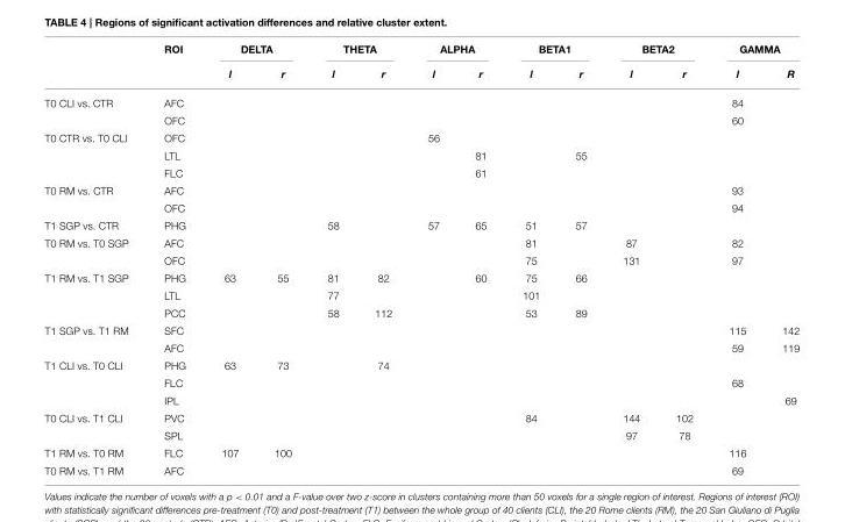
<table><thead><tr><td rowspan="2"></td><td rowspan="2">ROI</td><td colspan="2">DELTA</td><td colspan="2">THETA</td><td colspan="2">ALPHA</td><td colspan="2">BETA1</td><td colspan="2">BETA2</td><td colspan="2">GAMMA</td></tr><tr><td>l</td><td>r</td><td>l</td><td>r</td><td>l</td><td>r</td><td>l</td><td>r</td><td>l</td><td>r</td><td>l</td><td>R</td></tr></thead><tbody><tr><td rowspan="2">T0 CLI vs. CTR</td><td>AFC</td><td></td><td></td><td></td><td></td><td></td><td></td><td></td><td></td><td></td><td></td><td>84</td><td></td></tr><tr><td>OFC</td><td></td><td></td><td></td><td></td><td></td><td></td><td></td><td></td><td></td><td></td><td>60</td><td></td></tr><tr><td rowspan="3">T0 CTR vs. T0 CLI</td><td>OFC</td><td></td><td></td><td></td><td></td><td>56</td><td></td><td></td><td></td><td></td><td></td><td></td><td></td></tr><tr><td>LTL</td><td></td><td></td><td></td><td></td><td></td><td>81</td><td></td><td>55</td><td></td><td></td><td></td><td></td></tr><tr><td>FLC</td><td></td><td></td><td></td><td></td><td></td><td>61</td><td></td><td></td><td></td><td></td><td></td><td></td></tr><tr><td rowspan="2">T0 RM vs. CTR</td><td>AFC</td><td></td><td></td><td></td><td></td><td></td><td></td><td></td><td></td><td></td><td></td><td>93</td><td></td></tr><tr><td>OFC</td><td></td><td></td><td></td><td></td><td></td><td></td><td></td><td></td><td></td><td></td><td>94</td><td></td></tr><tr><td>T1 SGP vs. CTR</td><td>PHG</td><td></td><td></td><td>58</td><td></td><td>57</td><td>65</td><td>51</td><td>57</td><td></td><td></td><td></td><td></td></tr><tr><td rowspan="2">T0 RM vs. T0 SGP</td><td>AFC</td><td></td><td></td><td></td><td></td><td></td><td></td><td>81</td><td></td><td>87</td><td></td><td>82</td><td></td></tr><tr><td>OFC</td><td></td><td></td><td></td><td></td><td></td><td></td><td>75</td><td></td><td>131</td><td></td><td>97</td><td></td></tr><tr><td rowspan="3">T1 RM vs. T1 SGP</td><td>PHG</td><td>63</td><td>55</td><td>81</td><td>82</td><td></td><td>60</td><td>75</td><td>66</td><td></td><td></td><td></td><td></td></tr><tr><td>LTL</td><td></td><td></td><td>77</td><td></td><td></td><td></td><td>101</td><td></td><td></td><td></td><td></td><td></td></tr><tr><td>PCC</td><td></td><td></td><td>58</td><td>112</td><td></td><td></td><td>53</td><td>89</td><td></td><td></td><td></td><td></td></tr><tr><td rowspan="2">T1 SGP vs. T1 RM</td><td>SFC</td><td></td><td></td><td></td><td></td><td></td><td></td><td></td><td></td><td></td><td></td><td>115</td><td>142</td></tr><tr><td>AFC</td><td></td><td></td><td></td><td></td><td></td><td></td><td></td><td></td><td></td><td></td><td>59</td><td>119</td></tr><tr><td rowspan="3">T1 CLI vs. T0 CLI</td><td>PHG</td><td>63</td><td>73</td><td></td><td>74</td><td></td><td></td><td></td><td></td><td></td><td></td><td></td><td></td></tr><tr><td>FLC</td><td></td><td></td><td></td><td></td><td></td><td></td><td></td><td></td><td></td><td></td><td>68</td><td></td></tr><tr><td>IPL</td><td></td><td></td><td></td><td></td><td></td><td></td><td></td><td></td><td></td><td></td><td></td><td>69</td></tr><tr><td rowspan="2">T0 CLI vs. T1 CLI</td><td>PVC</td><td></td><td></td><td></td><td></td><td></td><td></td><td>84</td><td></td><td>144</td><td>102</td><td></td><td></td></tr><tr><td>SPL</td><td></td><td></td><td></td><td></td><td></td><td></td><td></td><td></td><td>97</td><td>78</td><td></td><td></td></tr><tr><td>T1 RM vs. T0 RM</td><td>FLC</td><td>107</td><td>100</td><td></td><td></td><td></td><td></td><td></td><td></td><td></td><td></td><td>116</td><td></td></tr><tr><td>T0 RM vs. T1 RM</td><td>AFC</td><td></td><td></td><td></td><td></td><td></td><td></td><td></td><td></td><td></td><td></td><td>69</td><td></td></tr></tbody></table>